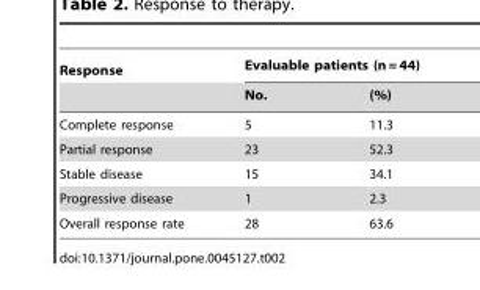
<table><thead><tr><td rowspan="2">Response</td><td colspan="2">Evaluable patients (n = 44)</td></tr><tr><td>No.</td><td>(%)</td></tr></thead><tbody><tr><td>Complete response</td><td>5</td><td>11.3</td></tr><tr><td>Partial response</td><td>23</td><td>52.3</td></tr><tr><td>Stable disease</td><td>15</td><td>34.1</td></tr><tr><td>Progressive disease</td><td>1</td><td>2.3</td></tr><tr><td>Overall response rate</td><td>28</td><td>63.6</td></tr></tbody></table>